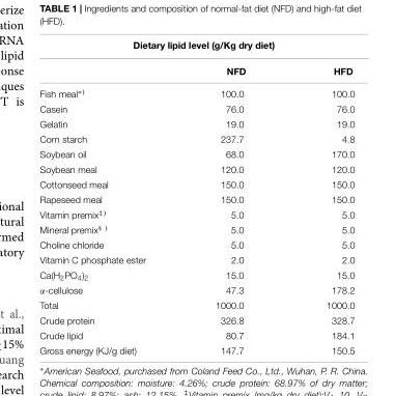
<table><thead><tr><td colspan="3">Dietary lipid level (g/Kg dry diet)</td></tr><tr><td></td><td>NFD</td><td>HFD</td></tr></thead><tbody><tr><td>Fish meal<sup>∗)</sup></td><td>100.0</td><td>100.0</td></tr><tr><td>Casein</td><td>76.0</td><td>76.0</td></tr><tr><td>Gelatin</td><td>19.0</td><td>19.0</td></tr><tr><td>Corn starch</td><td>237.7</td><td>4.8</td></tr><tr><td>Soybean oil</td><td>68.0</td><td>170.0</td></tr><tr><td>Soybean meal</td><td>120.0</td><td>120.0</td></tr><tr><td>Cottonseed meal</td><td>150.0</td><td>150.0</td></tr><tr><td>Rapeseed meal</td><td>150.0</td><td>150.0</td></tr><tr><td>Vitamin premix<sup>‡)</sup></td><td>5.0</td><td>5.0</td></tr><tr><td>Mineral premix<sup>§ )</sup></td><td>5.0</td><td>5.0</td></tr><tr><td>Choline chloride</td><td>5.0</td><td>5.0</td></tr><tr><td>Vitamin C phosphate ester</td><td>2.0</td><td>2.0</td></tr><tr><td>Ca(H<sub>2</sub>PO<sub>4</sub>)<sub>2</sub></td><td>15.0</td><td>15.0</td></tr><tr><td>α-cellulose</td><td>47.3</td><td>178.2</td></tr><tr><td>Total</td><td>1000.0</td><td>1000.0</td></tr><tr><td>Crude protein</td><td>326.8</td><td>328.7</td></tr><tr><td>Crude lipid</td><td>80.7</td><td>184.1</td></tr><tr><td>Gross energy (KJ/g diet)</td><td>147.7</td><td>150.5</td></tr></tbody></table>